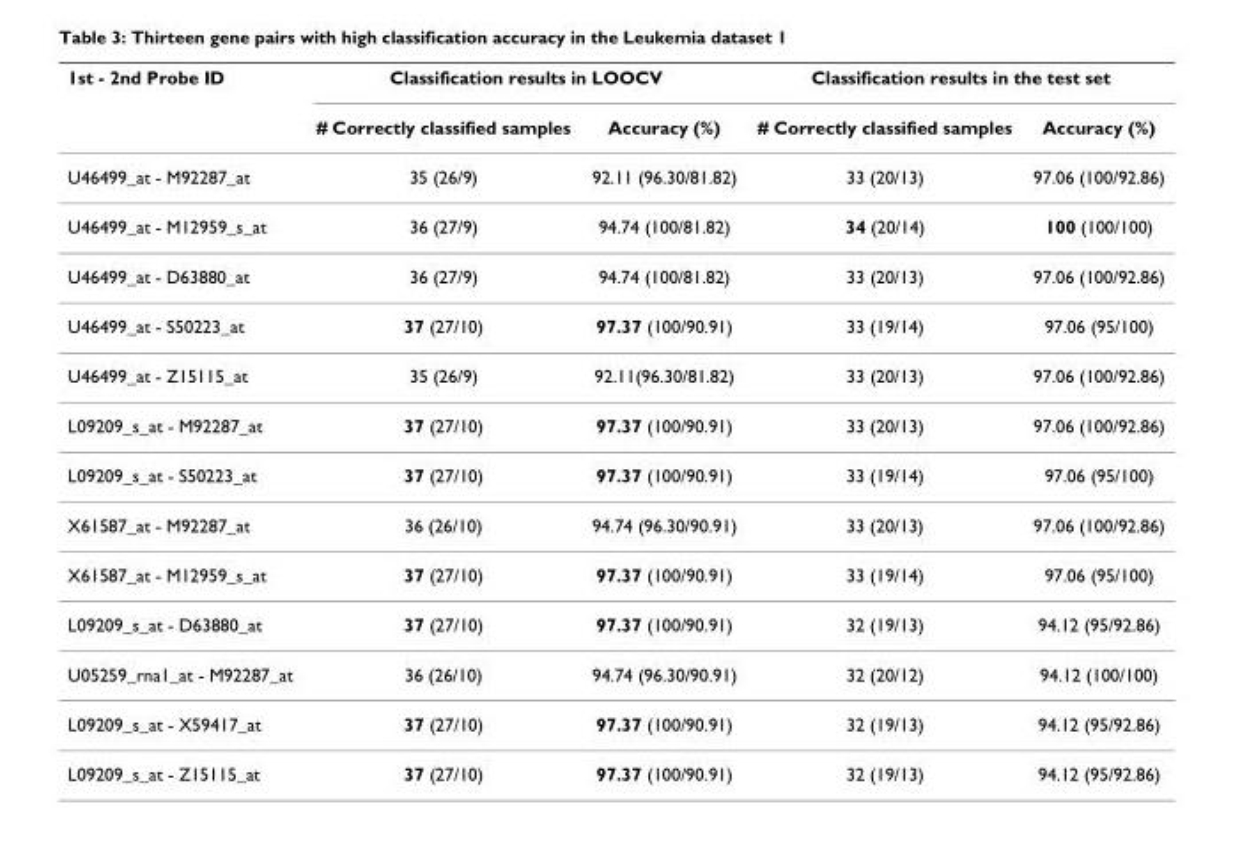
<table><thead><tr><td rowspan="2">1st - 2nd Probe ID</td><td colspan="2">Classification results in LOOCV</td><td colspan="2">Classification results in the test set</td></tr><tr><td># Correctly classified samples</td><td>Accuracy (%)</td><td># Correctly classified samples</td><td>Accuracy (%)</td></tr></thead><tbody><tr><td>U46499_at - M92287_at</td><td>35 (26/9)</td><td>92.11 (96.30/81.82)</td><td>33 (20/13)</td><td>97.06 (100/92.86)</td></tr><tr><td>U46499_at - M12959_s_at</td><td>36 (27/9)</td><td>94.74 (100/81.82)</td><td>34 (20/14)</td><td>100 (100/100)</td></tr><tr><td>U46499_at - D63880_at</td><td>36 (27/9)</td><td>94.74 (100/81.82)</td><td>33 (20/13)</td><td>97.06 (100/92.86)</td></tr><tr><td>U46499_at - S50223_at</td><td>37 (27/10)</td><td>97.37 (100/90.91)</td><td>33 (19/14)</td><td>97.06 (95/100)</td></tr><tr><td>U46499_at - Z15115_at</td><td>35 (26/9)</td><td>92.11(96.30/81.82)</td><td>33 (20/13)</td><td>97.06 (100/92.86)</td></tr><tr><td>L09209_s_at - M92287_at</td><td>37 (27/10)</td><td>97.37 (100/90.91)</td><td>33 (20/13)</td><td>97.06 (100/92.86)</td></tr><tr><td>L09209_s_at - S50223_at</td><td>37 (27/10)</td><td>97.37 (100/90.91)</td><td>33 (19/14)</td><td>97.06 (95/100)</td></tr><tr><td>X61587_at - M92287_at</td><td>36 (26/10)</td><td>94.74 (96.30/90.91)</td><td>33 (20/13)</td><td>97.06 (100/92.86)</td></tr><tr><td>X61587_at - M12959_s_at</td><td>37 (27/10)</td><td>97.37 (100/90.91)</td><td>33 (19/14)</td><td>97.06 (95/100)</td></tr><tr><td>L09209_s_at - D63880_at</td><td>37 (27/10)</td><td>97.37 (100/90.91)</td><td>32 (19/13)</td><td>94.12 (95/92.86)</td></tr><tr><td>U05259_rna1_at - M92287_at</td><td>36 (26/10)</td><td>94.74 (96.30/90.91)</td><td>32 (20/12)</td><td>94.12 (100/100)</td></tr><tr><td>L09209_s_at - X59417_at</td><td>37 (27/10)</td><td>97.37 (100/90.91)</td><td>32 (19/13)</td><td>94.12 (95/92.86)</td></tr><tr><td>L09209_s_at - Z15115_at</td><td>37 (27/10)</td><td>97.37 (100/90.91)</td><td>32 (19/13)</td><td>94.12 (95/92.86)</td></tr></tbody></table>